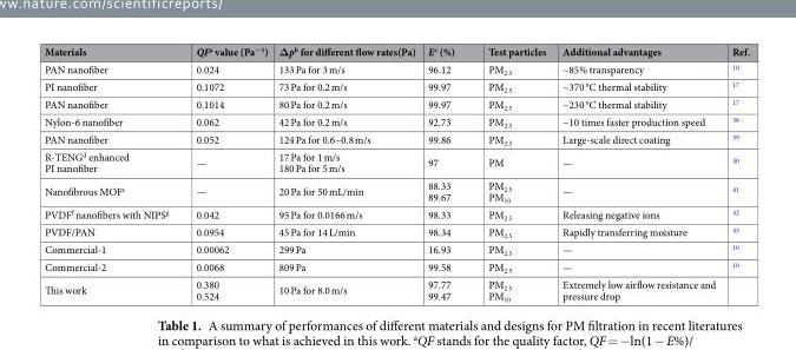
<table><thead><tr><td>Materials</td><td>QF<sup>a</sup> value (Pa<sup>−1</sup>)</td><td>Δp<sup>b</sup> for different flow rates(Pa)</td><td>E<sup>c</sup> (%)</td><td>Test particles</td><td>Additional advantages</td><td>Ref.</td></tr></thead><tbody><tr><td>PAN nanofiber</td><td>0.024</td><td>133 Pa for 3 m/s</td><td>96.12</td><td>PM<sub>2.5</sub></td><td>~85% transparency</td><td><sup>10</sup></td></tr><tr><td>PI nanofiber</td><td>0.1072</td><td>73 Pa for 0.2 m/s</td><td>99.97</td><td>PM<sub>2.5</sub></td><td>~370 °C thermal stability</td><td><sup>17</sup></td></tr><tr><td>PAN nanofiber</td><td>0.1014</td><td>80 Pa for 0.2 m/s</td><td>99.97</td><td>PM<sub>2.5</sub></td><td>~230 °C thermal stability</td><td><sup>17</sup></td></tr><tr><td>Nylon-6 nanofiber</td><td>0.062</td><td>42 Pa for 0.2 m/s</td><td>92.73</td><td>PM<sub>2.5</sub></td><td>~10 times faster production speed</td><td><sup>38</sup></td></tr><tr><td>PAN nanofiber</td><td>0.052</td><td>124 Pa for 0.6~0.8 m/s</td><td>99.86</td><td>PM<sub>2.5</sub></td><td>Large-scale direct coating</td><td><sup>39</sup></td></tr><tr><td>R-TENG<sup>d</sup> enhanced PI nanofiber</td><td>—</td><td>17 Pa for 1 m/s 180 Pa for 5 m/s</td><td>97</td><td>PM</td><td>—</td><td><sup>40</sup></td></tr><tr><td>Nanofibrous MOF<sup>e</sup></td><td>—</td><td>20 Pa for 50 mL/min</td><td>88.33 89.67</td><td>PM<sub>2.5</sub> PM<sub>10</sub></td><td>—</td><td><sup>41</sup></td></tr><tr><td>PVDF<sup>f</sup> nanofibers with NIPS<sup>g</sup></td><td>0.042</td><td>95 Pa for 0.0166 m/s</td><td>98.33</td><td>PM<sub>2.5</sub></td><td>Releasing negative ions</td><td><sup>42</sup></td></tr><tr><td>PVDF/PAN</td><td>0.0954</td><td>45 Pa for 14 L/min</td><td>98.34</td><td>PM<sub>2.5</sub></td><td>Rapidly transferring moisture</td><td><sup>43</sup></td></tr><tr><td>Commercial-1</td><td>0.00062</td><td>299 Pa</td><td>16.93</td><td>PM<sub>2.5</sub></td><td>—</td><td><sup>10</sup></td></tr><tr><td>Commercial-2</td><td>0.0068</td><td>809 Pa</td><td>99.58</td><td>PM<sub>2.5</sub></td><td>—</td><td><sup>10</sup></td></tr><tr><td>This work</td><td>0.380 0.524</td><td>10 Pa for 8.0 m/s</td><td>97.77 99.47</td><td>PM<sub>2.5</sub> PM<sub>10</sub></td><td>Extremely low airflow resistance and pressure drop</td><td></td></tr></tbody></table>